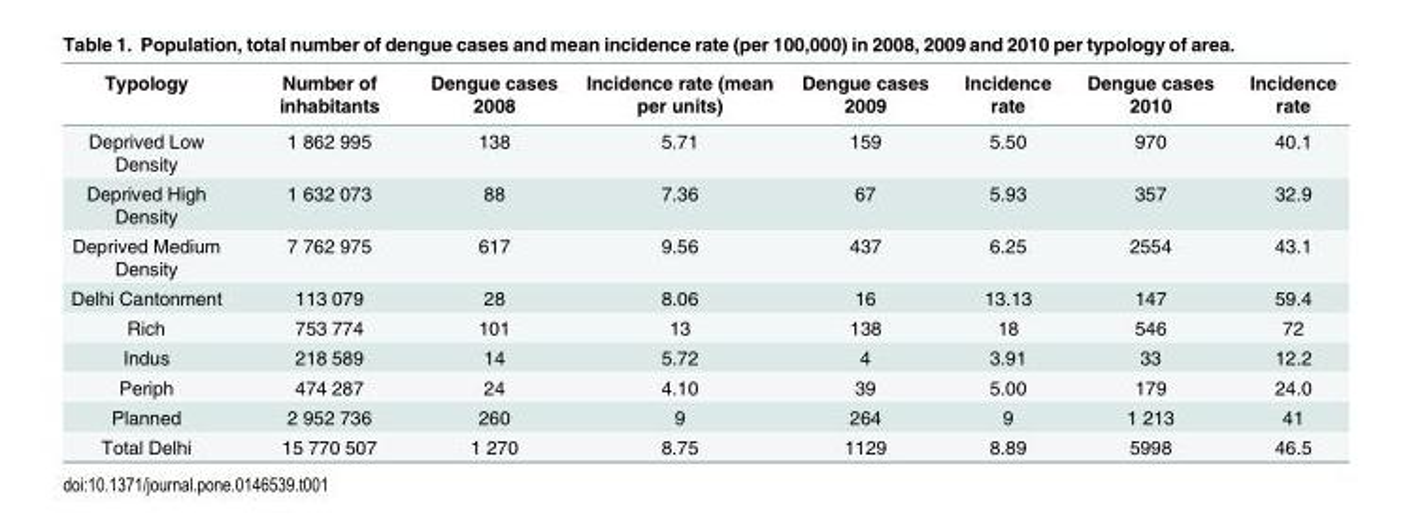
<table><thead><tr><td>Typology</td><td>Number of inhabitants</td><td>Dengue cases 2008</td><td>Incidence rate (mean per units)</td><td>Dengue cases 2009</td><td>Incidence rate</td><td>Dengue cases 2010</td><td>Incidence rate</td></tr></thead><tbody><tr><td>Deprived Low Density</td><td>1 862 995</td><td>138</td><td>5.71</td><td>159</td><td>5.50</td><td>970</td><td>40.1</td></tr><tr><td>Deprived High Density</td><td>1 632 073</td><td>88</td><td>7.36</td><td>67</td><td>5.93</td><td>357</td><td>32.9</td></tr><tr><td>Deprived Medium Density</td><td>7 762 975</td><td>617</td><td>9.56</td><td>437</td><td>6.25</td><td>2554</td><td>43.1</td></tr><tr><td>Delhi Cantonment</td><td>113 079</td><td>28</td><td>8.06</td><td>16</td><td>13.13</td><td>147</td><td>59.4</td></tr><tr><td>Rich</td><td>753 774</td><td>101</td><td>13</td><td>138</td><td>18</td><td>546</td><td>72</td></tr><tr><td>Indus</td><td>218 589</td><td>14</td><td>5.72</td><td>4</td><td>3.91</td><td>33</td><td>12.2</td></tr><tr><td>Periph</td><td>474 287</td><td>24</td><td>4.10</td><td>39</td><td>5.00</td><td>179</td><td>24.0</td></tr><tr><td>Planned</td><td>2 952 736</td><td>260</td><td>9</td><td>264</td><td>9</td><td>1 213</td><td>41</td></tr><tr><td>Total Delhi</td><td>15 770 507</td><td>1 270</td><td>8.75</td><td>1129</td><td>8.89</td><td>5998</td><td>46.5</td></tr></tbody></table>